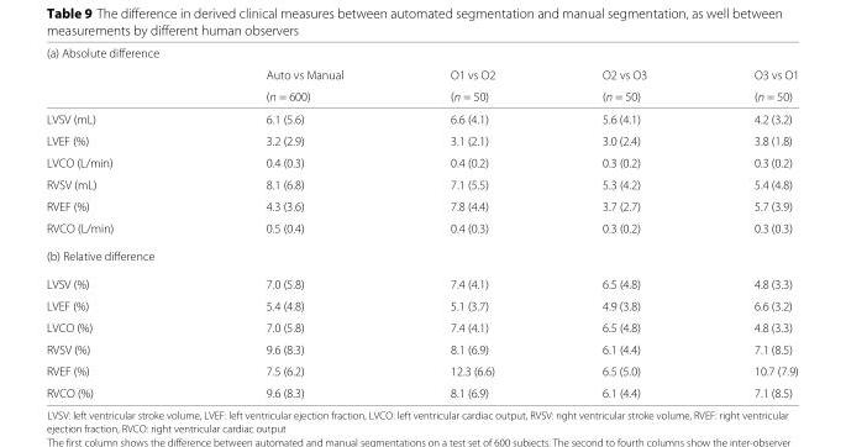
<table><thead><tr><td rowspan="3">(a) Absolute difference</td><td rowspan="3">Auto vs Manual (n = 600)</td><td rowspan="3">O1 vs O2 (n = 50)</td><td rowspan="3">O2 vs O3 (n = 50)</td><td rowspan="3">O3 vs O1 (n = 50)</td></tr><tr></tr><tr></tr></thead><tbody><tr><td>LVSV (mL)</td><td>6.1 (5.6)</td><td>6.6 (4.1)</td><td>5.6 (4.1)</td><td>4.2 (3.2)</td></tr><tr><td>LVEF (%)</td><td>3.2 (2.9)</td><td>3.1 (2.1)</td><td>3.0 (2.4)</td><td>3.8 (1.8)</td></tr><tr><td>LVCO (L/min)</td><td>0.4 (0.3)</td><td>0.4 (0.2)</td><td>0.3 (0.2)</td><td>0.3 (0.2)</td></tr><tr><td>RVSV (mL)</td><td>8.1 (6.8)</td><td>7.1 (5.5)</td><td>5.3 (4.2)</td><td>5.4 (4.8)</td></tr><tr><td>RVEF (%)</td><td>4.3 (3.6)</td><td>7.8 (4.4)</td><td>3.7 (2.7)</td><td>5.7 (3.9)</td></tr><tr><td>RVCO (L/min)</td><td>0.5 (0.4)</td><td>0.4 (0.3)</td><td>0.3 (0.2)</td><td>0.3 (0.3)</td></tr><tr><td colspan="5">(b) Relative difference</td></tr><tr><td>LVSV (%)</td><td>7.0 (5.8)</td><td>7.4 (4.1)</td><td>6.5 (4.8)</td><td>4.8 (3.3)</td></tr><tr><td>LVEF (%)</td><td>5.4 (4.8)</td><td>5.1 (3.7)</td><td>4.9 (3.8)</td><td>6.6 (3.2)</td></tr><tr><td>LVCO (%)</td><td>7.0 (5.8)</td><td>7.4 (4.1)</td><td>6.5 (4.8)</td><td>4.8 (3.3)</td></tr><tr><td>RVSV (%)</td><td>9.6 (8.3)</td><td>8.1 (6.9)</td><td>6.1 (4.4)</td><td>7.1 (8.5)</td></tr><tr><td>RVEF (%)</td><td>7.5 (6.2)</td><td>12.3 (6.6)</td><td>6.5 (5.0)</td><td>10.7 (7.9)</td></tr><tr><td>RVCO (%)</td><td>9.6 (8.3)</td><td>8.1 (6.9)</td><td>6.1 (4.4)</td><td>7.1 (8.5)</td></tr></tbody></table>